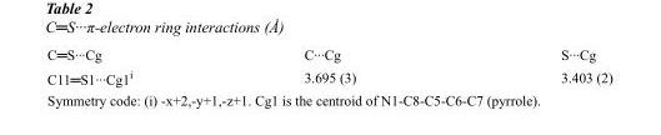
<table><tbody><tr><td>C═S···Cg</td><td>C···Cg</td><td>S···Cg</td></tr><tr><td>C11═S1···Cg1<sup>i</sup></td><td>3.695 (3)</td><td>3.403 (2)</td></tr></tbody></table>